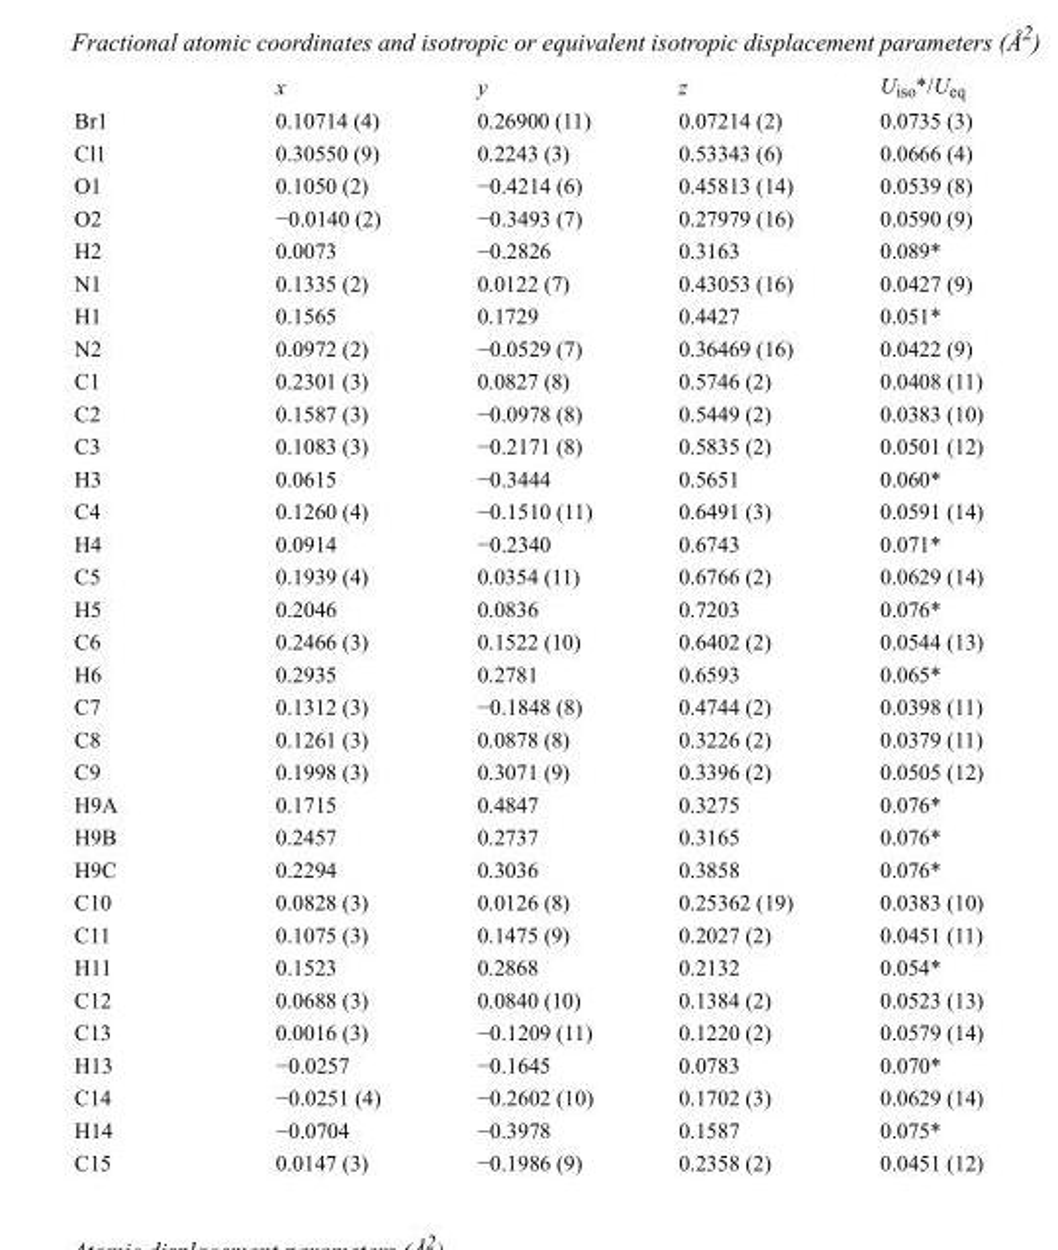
<table><thead><tr><td></td><td>x</td><td>y</td><td>z</td><td>U<sub>iso</sub>*/U<sub>eq</sub></td></tr></thead><tbody><tr><td>Br1</td><td>0.10714 (4)</td><td>0.26900 (11)</td><td>0.07214 (2)</td><td>0.0735 (3)</td></tr><tr><td>Cl1</td><td>0.30550 (9)</td><td>0.2243 (3)</td><td>0.53343 (6)</td><td>0.0666 (4)</td></tr><tr><td>O1</td><td>0.1050 (2)</td><td>−0.4214 (6)</td><td>0.45813 (14)</td><td>0.0539 (8)</td></tr><tr><td>O2</td><td>−0.0140 (2)</td><td>−0.3493 (7)</td><td>0.27979 (16)</td><td>0.0590 (9)</td></tr><tr><td>H2</td><td>0.0073</td><td>−0.2826</td><td>0.3163</td><td>0.089*</td></tr><tr><td>N1</td><td>0.1335 (2)</td><td>0.0122 (7)</td><td>0.43053 (16)</td><td>0.0427 (9)</td></tr><tr><td>H1</td><td>0.1565</td><td>0.1729</td><td>0.4427</td><td>0.051*</td></tr><tr><td>N2</td><td>0.0972 (2)</td><td>−0.0529 (7)</td><td>0.36469 (16)</td><td>0.0422 (9)</td></tr><tr><td>C1</td><td>0.2301 (3)</td><td>0.0827 (8)</td><td>0.5746 (2)</td><td>0.0408 (11)</td></tr><tr><td>C2</td><td>0.1587 (3)</td><td>−0.0978 (8)</td><td>0.5449 (2)</td><td>0.0383 (10)</td></tr><tr><td>C3</td><td>0.1083 (3)</td><td>−0.2171 (8)</td><td>0.5835 (2)</td><td>0.0501 (12)</td></tr><tr><td>H3</td><td>0.0615</td><td>−0.3444</td><td>0.5651</td><td>0.060*</td></tr><tr><td>C4</td><td>0.1260 (4)</td><td>−0.1510 (11)</td><td>0.6491 (3)</td><td>0.0591 (14)</td></tr><tr><td>H4</td><td>0.0914</td><td>−0.2340</td><td>0.6743</td><td>0.071*</td></tr><tr><td>C5</td><td>0.1939 (4)</td><td>0.0354 (11)</td><td>0.6766 (2)</td><td>0.0629 (14)</td></tr><tr><td>H5</td><td>0.2046</td><td>0.0836</td><td>0.7203</td><td>0.076*</td></tr><tr><td>C6</td><td>0.2466 (3)</td><td>0.1522 (10)</td><td>0.6402 (2)</td><td>0.0544 (13)</td></tr><tr><td>H6</td><td>0.2935</td><td>0.2781</td><td>0.6593</td><td>0.065*</td></tr><tr><td>C7</td><td>0.1312 (3)</td><td>−0.1848 (8)</td><td>0.4744 (2)</td><td>0.0398 (11)</td></tr><tr><td>C8</td><td>0.1261 (3)</td><td>0.0878 (8)</td><td>0.3226 (2)</td><td>0.0379 (11)</td></tr><tr><td>C9</td><td>0.1998 (3)</td><td>0.3071 (9)</td><td>0.3396 (2)</td><td>0.0505 (12)</td></tr><tr><td>H9A</td><td>0.1715</td><td>0.4847</td><td>0.3275</td><td>0.076*</td></tr><tr><td>H9B</td><td>0.2457</td><td>0.2737</td><td>0.3165</td><td>0.076*</td></tr><tr><td>H9C</td><td>0.2294</td><td>0.3036</td><td>0.3858</td><td>0.076*</td></tr><tr><td>C10</td><td>0.0828 (3)</td><td>0.0126 (8)</td><td>0.25362 (19)</td><td>0.0383 (10)</td></tr><tr><td>C11</td><td>0.1075 (3)</td><td>0.1475 (9)</td><td>0.2027 (2)</td><td>0.0451 (11)</td></tr><tr><td>H11</td><td>0.1523</td><td>0.2868</td><td>0.2132</td><td>0.054*</td></tr><tr><td>C12</td><td>0.0688 (3)</td><td>0.0840 (10)</td><td>0.1384 (2)</td><td>0.0523 (13)</td></tr><tr><td>C13</td><td>0.0016 (3)</td><td>−0.1209 (11)</td><td>0.1220 (2)</td><td>0.0579 (14)</td></tr><tr><td>H13</td><td>−0.0257</td><td>−0.1645</td><td>0.0783</td><td>0.070*</td></tr><tr><td>C14</td><td>−0.0251 (4)</td><td>−0.2602 (10)</td><td>0.1702 (3)</td><td>0.0629 (14)</td></tr><tr><td>H14</td><td>−0.0704</td><td>−0.3978</td><td>0.1587</td><td>0.075*</td></tr><tr><td>C15</td><td>0.0147 (3)</td><td>−0.1986 (9)</td><td>0.2358 (2)</td><td>0.0451 (12)</td></tr></tbody></table>